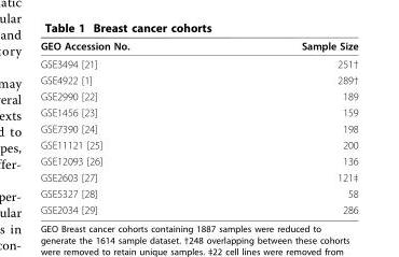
<table><thead><tr><td>GEO Accession No.</td><td>Sample Size</td></tr></thead><tbody><tr><td>GSE3494 [21]</td><td>251†</td></tr><tr><td>GSE4922 [1]</td><td>289†</td></tr><tr><td>GSE2990 [22]</td><td>189</td></tr><tr><td>GSE1456 [23]</td><td>159</td></tr><tr><td>GSE7390 [24]</td><td>198</td></tr><tr><td>GSE11121 [25]</td><td>200</td></tr><tr><td>GSE12093 [26]</td><td>136</td></tr><tr><td>GSE2603 [27]</td><td>121‡</td></tr><tr><td>GSE5327 [28]</td><td>58</td></tr><tr><td>GSE2034 [29]</td><td>286</td></tr></tbody></table>